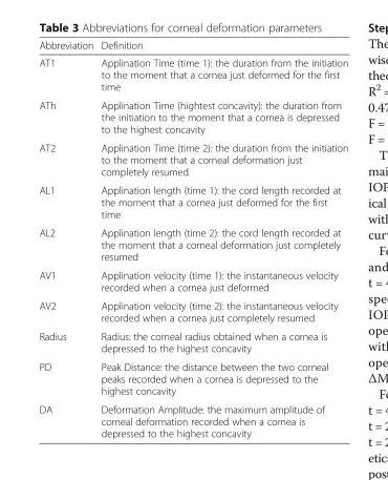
<table><thead><tr><td>Abbreviation</td><td>Definition</td></tr></thead><tbody><tr><td>AT1</td><td>Applination Time (time 1): the duration from the initiation to the moment that a cornea just deformed for the first time</td></tr><tr><td>ATh</td><td>Applination Time (hightest concavity): the duration from the initiation to the moment that a cornea is depressed to the highest concavity</td></tr><tr><td>AT2</td><td>Applination Time (time 2): the duration from the initiation to the moment that a corneal deformation just completely resumed</td></tr><tr><td>AL1</td><td>Applination length (time 1): the cord length recorded at the moment that a cornea just deformed for the first time</td></tr><tr><td>AL2</td><td>Applination length (time 2): the cord length recorded at the moment that a corneal deformation just completely resumed</td></tr><tr><td>AV1</td><td>Applination velocity (time 1): the instantaneous velocity recorded when a cornea just deformed</td></tr><tr><td>AV2</td><td>Applination velocity (time 2): the instantaneous velocity recorded when a cornea just completely resumed</td></tr><tr><td>Radius</td><td>Radius: the corneal radius obtained when a cornea is depressed to the highest concavity</td></tr><tr><td>PD</td><td>Peak Distance: the distance between the two corneal peaks recorded when a cornea is depressed to the highest concavity</td></tr><tr><td>DA</td><td>Deformation Amplitude: the maximum amplitude of corneal deformation recorded when a cornea is depressed to the highest concavity</td></tr></tbody></table>